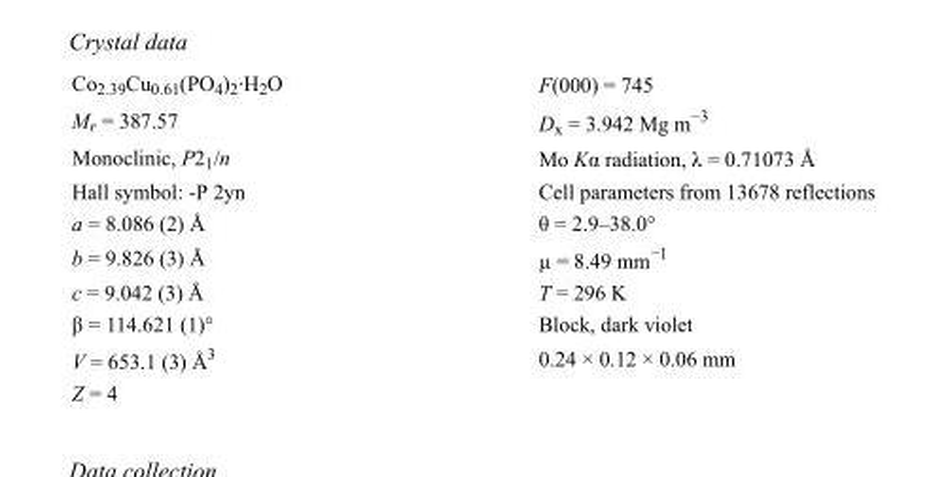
<table><tbody><tr><td>Co<sub>2.39</sub>Cu<sub>0.61</sub>(PO<sub>4</sub>)<sub>2</sub>·H<sub>2</sub>O</td><td>F(000) = 745</td></tr><tr><td>M<sub>r</sub> = 387.57</td><td>D<sub>x</sub> = 3.942 Mg m<sup>−3</sup></td></tr><tr><td>Monoclinic, P2<sub>1</sub>/n</td><td>Mo Kα radiation, λ = 0.71073 Å</td></tr><tr><td>Hall symbol: -P 2yn</td><td>Cell parameters from 13678 reflections</td></tr><tr><td>a = 8.086 (2) Å</td><td>θ = 2.9–38.0°</td></tr><tr><td>b = 9.826 (3) Å</td><td>µ = 8.49 mm<sup>−1</sup></td></tr><tr><td>c = 9.042 (3) Å</td><td>T = 296 K</td></tr><tr><td>β = 114.621 (1)°</td><td>Block, dark violet</td></tr><tr><td>V = 653.1 (3) Å<sup>3</sup></td><td>0.24 × 0.12 × 0.06 mm</td></tr><tr><td>Z = 4</td><td></td></tr></tbody></table>